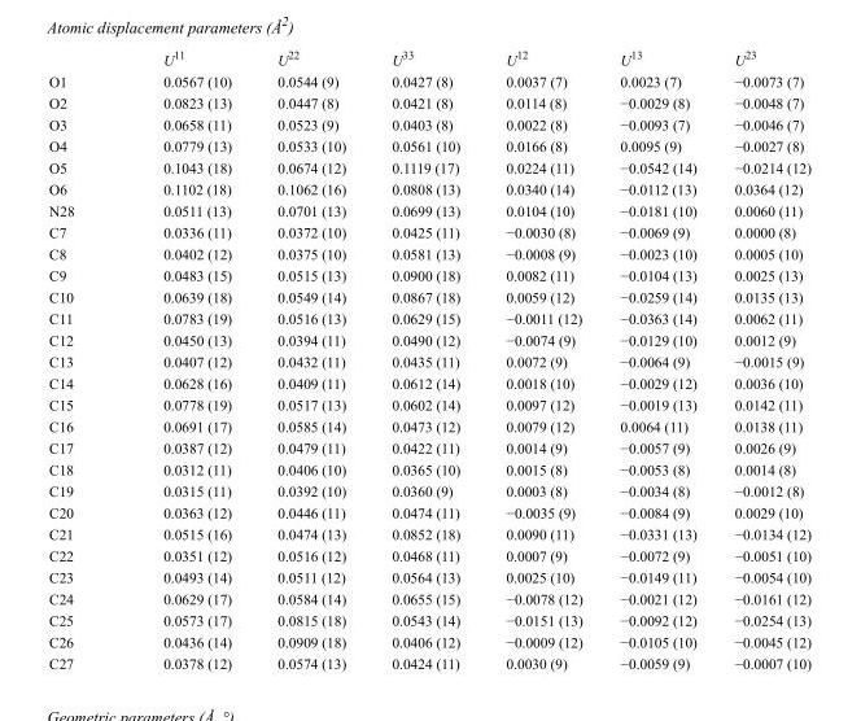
<table><thead><tr><td></td><td>U<sup>11</sup></td><td>U<sup>22</sup></td><td>U<sup>33</sup></td><td>U<sup>12</sup></td><td>U<sup>13</sup></td><td>U<sup>23</sup></td></tr></thead><tbody><tr><td>O1</td><td>0.0567 (10)</td><td>0.0544 (9)</td><td>0.0427 (8)</td><td>0.0037 (7)</td><td>0.0023 (7)</td><td>−0.0073 (7)</td></tr><tr><td>O2</td><td>0.0823 (13)</td><td>0.0447 (8)</td><td>0.0421 (8)</td><td>0.0114 (8)</td><td>−0.0029 (8)</td><td>−0.0048 (7)</td></tr><tr><td>O3</td><td>0.0658 (11)</td><td>0.0523 (9)</td><td>0.0403 (8)</td><td>0.0022 (8)</td><td>−0.0093 (7)</td><td>−0.0046 (7)</td></tr><tr><td>O4</td><td>0.0779 (13)</td><td>0.0533 (10)</td><td>0.0561 (10)</td><td>0.0166 (8)</td><td>0.0095 (9)</td><td>−0.0027 (8)</td></tr><tr><td>O5</td><td>0.1043 (18)</td><td>0.0674 (12)</td><td>0.1119 (17)</td><td>0.0224 (11)</td><td>−0.0542 (14)</td><td>−0.0214 (12)</td></tr><tr><td>O6</td><td>0.1102 (18)</td><td>0.1062 (16)</td><td>0.0808 (13)</td><td>0.0340 (14)</td><td>−0.0112 (13)</td><td>0.0364 (12)</td></tr><tr><td>N28</td><td>0.0511 (13)</td><td>0.0701 (13)</td><td>0.0699 (13)</td><td>0.0104 (10)</td><td>−0.0181 (10)</td><td>0.0060 (11)</td></tr><tr><td>C7</td><td>0.0336 (11)</td><td>0.0372 (10)</td><td>0.0425 (11)</td><td>−0.0030 (8)</td><td>−0.0069 (9)</td><td>0.0000 (8)</td></tr><tr><td>C8</td><td>0.0402 (12)</td><td>0.0375 (10)</td><td>0.0581 (13)</td><td>−0.0008 (9)</td><td>−0.0023 (10)</td><td>0.0005 (10)</td></tr><tr><td>C9</td><td>0.0483 (15)</td><td>0.0515 (13)</td><td>0.0900 (18)</td><td>0.0082 (11)</td><td>−0.0104 (13)</td><td>0.0025 (13)</td></tr><tr><td>C10</td><td>0.0639 (18)</td><td>0.0549 (14)</td><td>0.0867 (18)</td><td>0.0059 (12)</td><td>−0.0259 (14)</td><td>0.0135 (13)</td></tr><tr><td>C11</td><td>0.0783 (19)</td><td>0.0516 (13)</td><td>0.0629 (15)</td><td>−0.0011 (12)</td><td>−0.0363 (14)</td><td>0.0062 (11)</td></tr><tr><td>C12</td><td>0.0450 (13)</td><td>0.0394 (11)</td><td>0.0490 (12)</td><td>−0.0074 (9)</td><td>−0.0129 (10)</td><td>0.0012 (9)</td></tr><tr><td>C13</td><td>0.0407 (12)</td><td>0.0432 (11)</td><td>0.0435 (11)</td><td>0.0072 (9)</td><td>−0.0064 (9)</td><td>−0.0015 (9)</td></tr><tr><td>C14</td><td>0.0628 (16)</td><td>0.0409 (11)</td><td>0.0612 (14)</td><td>0.0018 (10)</td><td>−0.0029 (12)</td><td>0.0036 (10)</td></tr><tr><td>C15</td><td>0.0778 (19)</td><td>0.0517 (13)</td><td>0.0602 (14)</td><td>0.0097 (12)</td><td>−0.0019 (13)</td><td>0.0142 (11)</td></tr><tr><td>C16</td><td>0.0691 (17)</td><td>0.0585 (14)</td><td>0.0473 (12)</td><td>0.0079 (12)</td><td>0.0064 (11)</td><td>0.0138 (11)</td></tr><tr><td>C17</td><td>0.0387 (12)</td><td>0.0479 (11)</td><td>0.0422 (11)</td><td>0.0014 (9)</td><td>−0.0057 (9)</td><td>0.0026 (9)</td></tr><tr><td>C18</td><td>0.0312 (11)</td><td>0.0406 (10)</td><td>0.0365 (10)</td><td>0.0015 (8)</td><td>−0.0053 (8)</td><td>0.0014 (8)</td></tr><tr><td>C19</td><td>0.0315 (11)</td><td>0.0392 (10)</td><td>0.0360 (9)</td><td>0.0003 (8)</td><td>−0.0034 (8)</td><td>−0.0012 (8)</td></tr><tr><td>C20</td><td>0.0363 (12)</td><td>0.0446 (11)</td><td>0.0474 (11)</td><td>−0.0035 (9)</td><td>−0.0084 (9)</td><td>0.0029 (10)</td></tr><tr><td>C21</td><td>0.0515 (16)</td><td>0.0474 (13)</td><td>0.0852 (18)</td><td>0.0090 (11)</td><td>−0.0331 (13)</td><td>−0.0134 (12)</td></tr><tr><td>C22</td><td>0.0351 (12)</td><td>0.0516 (12)</td><td>0.0468 (11)</td><td>0.0007 (9)</td><td>−0.0072 (9)</td><td>−0.0051 (10)</td></tr><tr><td>C23</td><td>0.0493 (14)</td><td>0.0511 (12)</td><td>0.0564 (13)</td><td>0.0025 (10)</td><td>−0.0149 (11)</td><td>−0.0054 (10)</td></tr><tr><td>C24</td><td>0.0629 (17)</td><td>0.0584 (14)</td><td>0.0655 (15)</td><td>−0.0078 (12)</td><td>−0.0021 (12)</td><td>−0.0161 (12)</td></tr><tr><td>C25</td><td>0.0573 (17)</td><td>0.0815 (18)</td><td>0.0543 (14)</td><td>−0.0151 (13)</td><td>−0.0092 (12)</td><td>−0.0254 (13)</td></tr><tr><td>C26</td><td>0.0436 (14)</td><td>0.0909 (18)</td><td>0.0406 (12)</td><td>−0.0009 (12)</td><td>−0.0105 (10)</td><td>−0.0045 (12)</td></tr><tr><td>C27</td><td>0.0378 (12)</td><td>0.0574 (13)</td><td>0.0424 (11)</td><td>0.0030 (9)</td><td>−0.0059 (9)</td><td>−0.0007 (10)</td></tr></tbody></table>